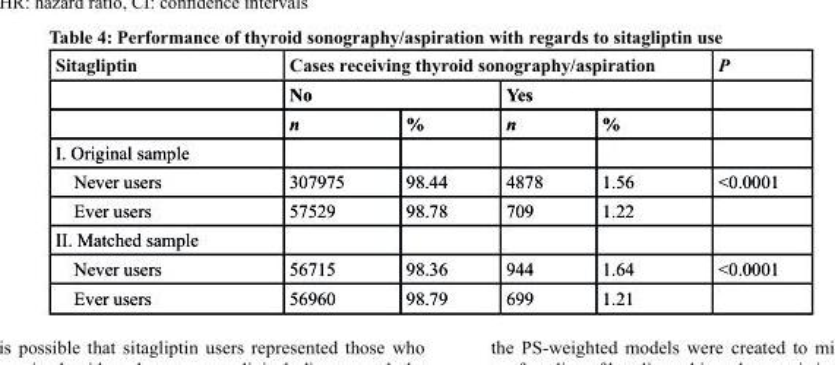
<table><thead><tr><td rowspan="3">sitagliptin</td><td colspan="4">cases receiving thyroid sonography/aspiration</td><td rowspan="3">P</td></tr><tr><td colspan="2">no</td><td colspan="2">Yes</td></tr><tr><td>n</td><td>%</td><td>n</td><td>%</td></tr></thead><tbody><tr><td colspan="6">I. Original sample</td></tr><tr><td>Never users</td><td>307975</td><td>98.44</td><td>4878</td><td>1.56</td><td>&lt;0.0001</td></tr><tr><td>Ever users</td><td>57529</td><td>98.78</td><td>709</td><td>1.22</td><td></td></tr><tr><td colspan="6">II. Matched sample</td></tr><tr><td>Never users</td><td>56715</td><td>98.36</td><td>944</td><td>1.64</td><td>&lt;0.0001</td></tr><tr><td>Ever users</td><td>56960</td><td>98.79</td><td>699</td><td>1.21</td><td></td></tr></tbody></table>